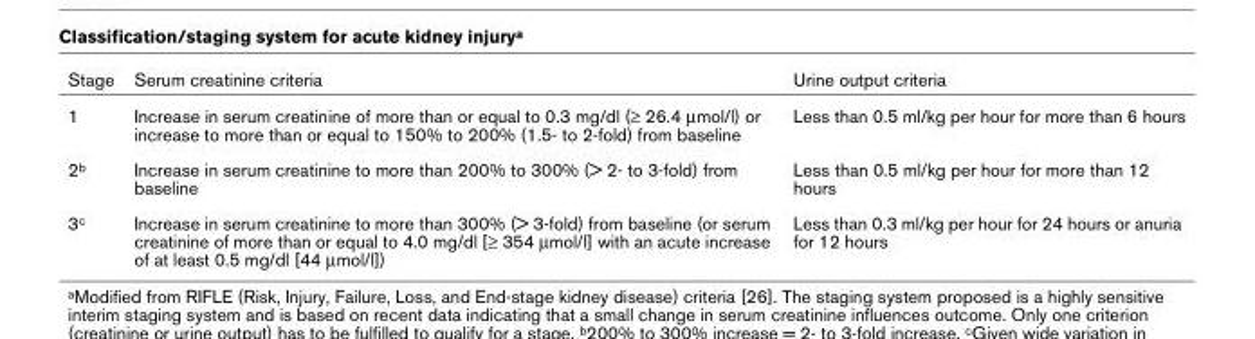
<table><thead><tr><td>Stage</td><td>Serum creatinine criteria</td><td>Urine output criteria</td></tr></thead><tbody><tr><td>1</td><td>Increase in serum creatinine of more than or equal to 0.3 mg/dl (≥ 26.4 μmol/l) or increase to more than or equal to 150% to 200% (1.5- to 2-fold) from baseline</td><td>Less than 0.5 ml/kg per hour for more than 6 hours</td></tr><tr><td>2<sup>b</sup></td><td>Increase in serum creatinine to more than 200% to 300% (&gt; 2- to 3-fold) from baseline</td><td>Less than 0.5 ml/kg per hour for more than 12 hours</td></tr><tr><td>3<sup>c</sup></td><td>Increase in serum creatinine to more than 300% (&gt; 3-fold) from baseline (or serum creatinine of more than or equal to 4.0 mg/dl [≥ 354 μmol/l] with an acute increase of at least 0.5 mg/dl [44 μmol/l])</td><td>Less than 0.3 ml/kg per hour for 24 hours or anuria for 12 hours</td></tr></tbody></table>